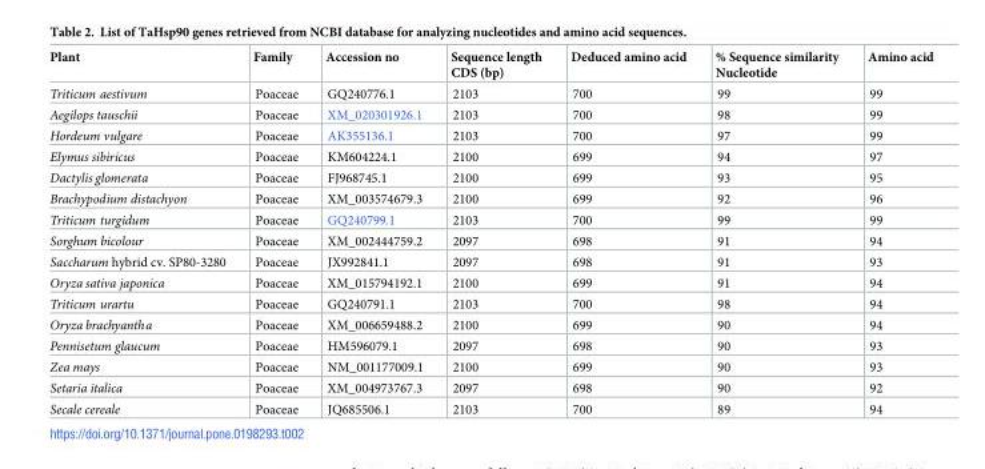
<table><thead><tr><td>Plant</td><td>Family</td><td>Accession no</td><td>Sequence length CDS (bp)</td><td>Deduced amino acid</td><td>% Sequence similarity Nucleotide</td><td>Amino acid</td></tr></thead><tbody><tr><td>Triticum aestivum</td><td>Poaceae</td><td>GQ240776.1</td><td>2103</td><td>700</td><td>99</td><td>99</td></tr><tr><td>Aegilops tauschii</td><td>Poaceae</td><td>XM_020301926.1</td><td>2103</td><td>700</td><td>98</td><td>99</td></tr><tr><td>Hordeum vulgare</td><td>Poaceae</td><td>AK355136.1</td><td>2103</td><td>700</td><td>97</td><td>99</td></tr><tr><td>Elymus sibiricus</td><td>Poaceae</td><td>KM604224.1</td><td>2100</td><td>699</td><td>94</td><td>97</td></tr><tr><td>Dactylis glomerata</td><td>Poaceae</td><td>FJ968745.1</td><td>2100</td><td>699</td><td>93</td><td>95</td></tr><tr><td>Brachypodium distachyon</td><td>Poaceae</td><td>XM_003574679.3</td><td>2100</td><td>699</td><td>92</td><td>96</td></tr><tr><td>Triticum turgidum</td><td>Poaceae</td><td>GQ240799.1</td><td>2103</td><td>700</td><td>99</td><td>99</td></tr><tr><td>Sorghum bicolour</td><td>Poaceae</td><td>XM_002444759.2</td><td>2097</td><td>698</td><td>91</td><td>94</td></tr><tr><td>Saccharum hybrid cv. SP80-3280</td><td>Poaceae</td><td>JX992841.1</td><td>2097</td><td>698</td><td>91</td><td>93</td></tr><tr><td>Oryza sativa japonica</td><td>Poaceae</td><td>XM_015794192.1</td><td>2100</td><td>699</td><td>91</td><td>94</td></tr><tr><td>Triticum urartu</td><td>Poaceae</td><td>GQ240791.1</td><td>2103</td><td>700</td><td>98</td><td>94</td></tr><tr><td>Oryza brachyantha</td><td>Poaceae</td><td>XM_006659488.2</td><td>2100</td><td>699</td><td>90</td><td>94</td></tr><tr><td>Pennisetum glaucum</td><td>Poaceae</td><td>HM596079.1</td><td>2097</td><td>698</td><td>90</td><td>93</td></tr><tr><td>Zea mays</td><td>Poaceae</td><td>NM_001177009.1</td><td>2100</td><td>699</td><td>90</td><td>93</td></tr><tr><td>Setaria italica</td><td>Poaceae</td><td>XM_004973767.3</td><td>2097</td><td>698</td><td>90</td><td>92</td></tr><tr><td>Secale cereale</td><td>Poaceae</td><td>JQ685506.1</td><td>2103</td><td>700</td><td>89</td><td>94</td></tr></tbody></table>